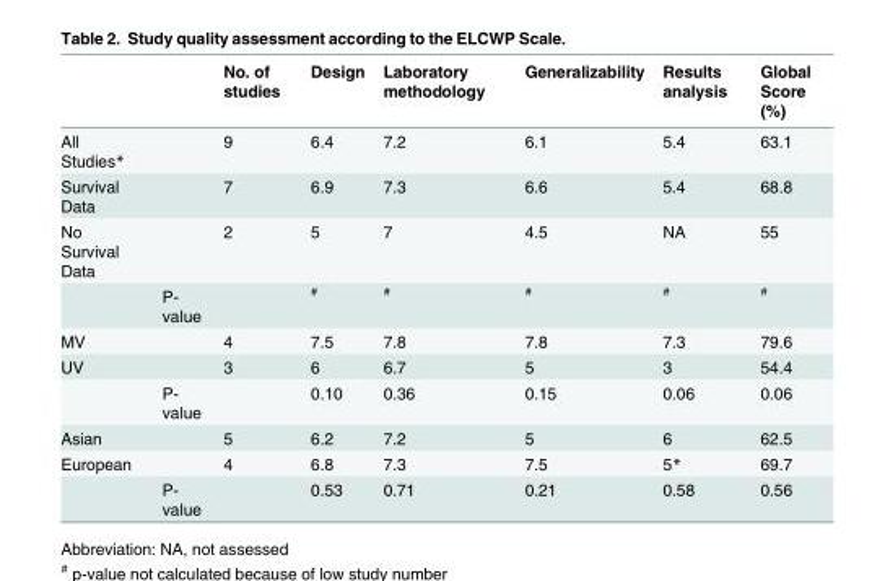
<table><thead><tr><td></td><td></td><td>No. of studies</td><td>Design</td><td>Laboratory methodology</td><td>Generalizability</td><td>Results analysis</td><td>Global Score (%)</td></tr></thead><tbody><tr><td>All Studies*</td><td></td><td>9</td><td>6.4</td><td>7.2</td><td>6.1</td><td>5.4</td><td>63.1</td></tr><tr><td>Survival Data</td><td></td><td>7</td><td>6.9</td><td>7.3</td><td>6.6</td><td>5.4</td><td>68.8</td></tr><tr><td rowspan="2">No Survival Data</td><td></td><td>2</td><td>5</td><td>7</td><td>4.5</td><td>NA</td><td>55</td></tr><tr><td>P- value</td><td></td><td><sup>#</sup></td><td><sup>#</sup></td><td><sup>#</sup></td><td><sup>#</sup></td><td><sup>#</sup></td></tr><tr><td>MV</td><td></td><td>4</td><td>7.5</td><td>7.8</td><td>7.8</td><td>7.3</td><td>79.6</td></tr><tr><td rowspan="2">UV</td><td></td><td>3</td><td>6</td><td>6.7</td><td>5</td><td>3</td><td>54.4</td></tr><tr><td>P- value</td><td></td><td>0.10</td><td>0.36</td><td>0.15</td><td>0.06</td><td>0.06</td></tr><tr><td>Asian</td><td></td><td>5</td><td>6.2</td><td>7.2</td><td>5</td><td>6</td><td>62.5</td></tr><tr><td rowspan="2">European</td><td></td><td>4</td><td>6.8</td><td>7.3</td><td>7.5</td><td>5*</td><td>69.7</td></tr><tr><td>P- value</td><td></td><td>0.53</td><td>0.71</td><td>0.21</td><td>0.58</td><td>0.56</td></tr></tbody></table>